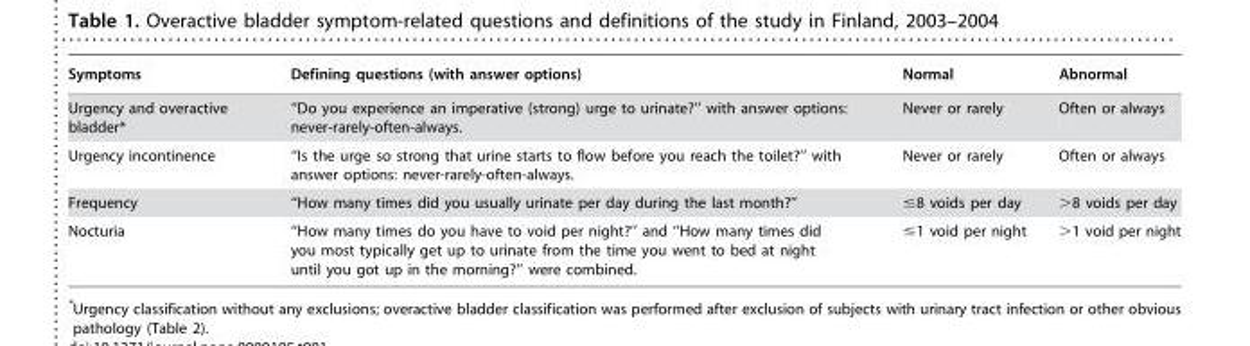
<table><thead><tr><td>Symptoms</td><td>Defining questions (with answer options)</td><td>Normal</td><td>Abnormal</td></tr></thead><tbody><tr><td>Urgency and overactive bladder*</td><td>‘‘Do you experience an imperative (strong) urge to urinate?’’ with answer options: never-rarely-often-always.</td><td>Never or rarely</td><td>Often or always</td></tr><tr><td>Urgency incontinence</td><td>‘‘Is the urge so strong that urine starts to flow before you reach the toilet?’’ with answer options: never-rarely-often-always.</td><td>Never or rarely</td><td>Often or always</td></tr><tr><td>Frequency</td><td>‘‘How many times did you usually urinate per day during the last month?’’</td><td>≤8 voids per day</td><td>&gt;8 voids per day</td></tr><tr><td>Nocturia</td><td>‘‘How many times do you have to void per night?’’ and ‘‘How many times did you most typically get up to urinate from the time you went to bed at night until you got up in the morning?’’ were combined.</td><td>≤1 void per night</td><td>&gt;1 void per night</td></tr></tbody></table>